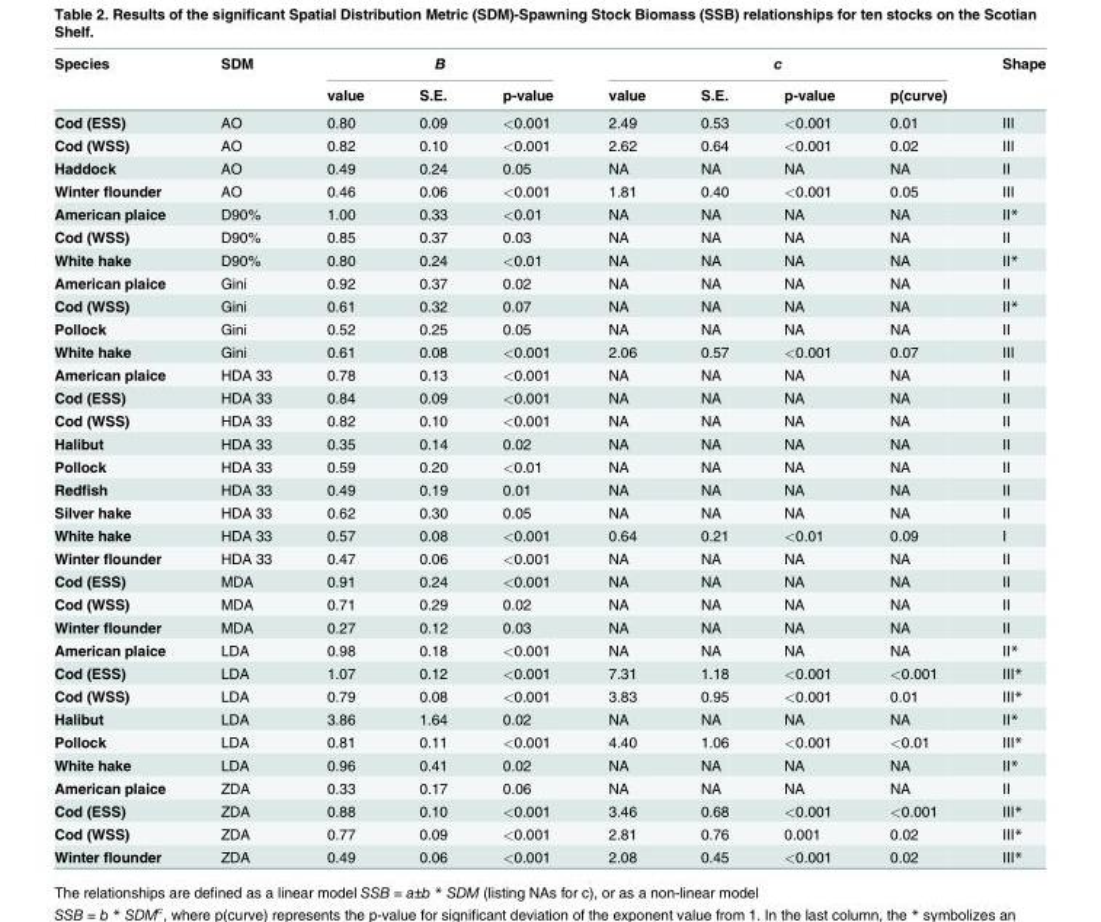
<table><thead><tr><td rowspan="2">Species</td><td rowspan="2">SDM</td><td colspan="3">B</td><td colspan="4">c</td><td rowspan="2">Shape</td></tr><tr><td>value</td><td>S.E.</td><td>p-value</td><td>value</td><td>S.E.</td><td>p-value</td><td>p(curve)</td></tr></thead><tbody><tr><td>Cod (ESS)</td><td>AO</td><td>0.80</td><td>0.09</td><td>&lt;0.001</td><td>2.49</td><td>0.53</td><td>&lt;0.001</td><td>0.01</td><td>III</td></tr><tr><td>Cod (WSS)</td><td>AO</td><td>0.82</td><td>0.10</td><td>&lt;0.001</td><td>2.62</td><td>0.64</td><td>&lt;0.001</td><td>0.02</td><td>III</td></tr><tr><td>Haddock</td><td>AO</td><td>0.49</td><td>0.24</td><td>0.05</td><td>NA</td><td>NA</td><td>NA</td><td>NA</td><td>II</td></tr><tr><td>Winter flounder</td><td>AO</td><td>0.46</td><td>0.06</td><td>&lt;0.001</td><td>1.81</td><td>0.40</td><td>&lt;0.001</td><td>0.05</td><td>III</td></tr><tr><td>American plaice</td><td>D90%</td><td>1.00</td><td>0.33</td><td>&lt;0.01</td><td>NA</td><td>NA</td><td>NA</td><td>NA</td><td>II*</td></tr><tr><td>Cod (WSS)</td><td>D90%</td><td>0.85</td><td>0.37</td><td>0.03</td><td>NA</td><td>NA</td><td>NA</td><td>NA</td><td>II</td></tr><tr><td>White hake</td><td>D90%</td><td>0.80</td><td>0.24</td><td>&lt;0.01</td><td>NA</td><td>NA</td><td>NA</td><td>NA</td><td>II*</td></tr><tr><td>American plaice</td><td>Gini</td><td>0.92</td><td>0.37</td><td>0.02</td><td>NA</td><td>NA</td><td>NA</td><td>NA</td><td>II</td></tr><tr><td>Cod (WSS)</td><td>Gini</td><td>0.61</td><td>0.32</td><td>0.07</td><td>NA</td><td>NA</td><td>NA</td><td>NA</td><td>II*</td></tr><tr><td>Pollock</td><td>Gini</td><td>0.52</td><td>0.25</td><td>0.05</td><td>NA</td><td>NA</td><td>NA</td><td>NA</td><td>II</td></tr><tr><td>White hake</td><td>Gini</td><td>0.61</td><td>0.08</td><td>&lt;0.001</td><td>2.06</td><td>0.57</td><td>&lt;0.001</td><td>0.07</td><td>III</td></tr><tr><td>American plaice</td><td>HDA 33</td><td>0.78</td><td>0.13</td><td>&lt;0.001</td><td>NA</td><td>NA</td><td>NA</td><td>NA</td><td>II</td></tr><tr><td>Cod (ESS)</td><td>HDA 33</td><td>0.84</td><td>0.09</td><td>&lt;0.001</td><td>NA</td><td>NA</td><td>NA</td><td>NA</td><td>II</td></tr><tr><td>Cod (WSS)</td><td>HDA 33</td><td>0.82</td><td>0.10</td><td>&lt;0.001</td><td>NA</td><td>NA</td><td>NA</td><td>NA</td><td>II</td></tr><tr><td>Halibut</td><td>HDA 33</td><td>0.35</td><td>0.14</td><td>0.02</td><td>NA</td><td>NA</td><td>NA</td><td>NA</td><td>II</td></tr><tr><td>Pollock</td><td>HDA 33</td><td>0.59</td><td>0.20</td><td>&lt;0.01</td><td>NA</td><td>NA</td><td>NA</td><td>NA</td><td>II</td></tr><tr><td>Redfish</td><td>HDA 33</td><td>0.49</td><td>0.19</td><td>0.01</td><td>NA</td><td>NA</td><td>NA</td><td>NA</td><td>II</td></tr><tr><td>Silver hake</td><td>HDA 33</td><td>0.62</td><td>0.30</td><td>0.05</td><td>NA</td><td>NA</td><td>NA</td><td>NA</td><td>II</td></tr><tr><td>White hake</td><td>HDA 33</td><td>0.57</td><td>0.08</td><td>&lt;0.001</td><td>0.64</td><td>0.21</td><td>&lt;0.01</td><td>0.09</td><td>I</td></tr><tr><td>Winter flounder</td><td>HDA 33</td><td>0.47</td><td>0.06</td><td>&lt;0.001</td><td>NA</td><td>NA</td><td>NA</td><td>NA</td><td>II</td></tr><tr><td>Cod (ESS)</td><td>MDA</td><td>0.91</td><td>0.24</td><td>&lt;0.001</td><td>NA</td><td>NA</td><td>NA</td><td>NA</td><td>II</td></tr><tr><td>Cod (WSS)</td><td>MDA</td><td>0.71</td><td>0.29</td><td>0.02</td><td>NA</td><td>NA</td><td>NA</td><td>NA</td><td>II</td></tr><tr><td>Winter flounder</td><td>MDA</td><td>0.27</td><td>0.12</td><td>0.03</td><td>NA</td><td>NA</td><td>NA</td><td>NA</td><td>II</td></tr><tr><td>American plaice</td><td>LDA</td><td>0.98</td><td>0.18</td><td>&lt;0.001</td><td>NA</td><td>NA</td><td>NA</td><td>NA</td><td>II*</td></tr><tr><td>Cod (ESS)</td><td>LDA</td><td>1.07</td><td>0.12</td><td>&lt;0.001</td><td>7.31</td><td>1.18</td><td>&lt;0.001</td><td>&lt;0.001</td><td>III*</td></tr><tr><td>Cod (WSS)</td><td>LDA</td><td>0.79</td><td>0.08</td><td>&lt;0.001</td><td>3.83</td><td>0.95</td><td>&lt;0.001</td><td>0.01</td><td>III*</td></tr><tr><td>Halibut</td><td>LDA</td><td>3.86</td><td>1.64</td><td>0.02</td><td>NA</td><td>NA</td><td>NA</td><td>NA</td><td>II*</td></tr><tr><td>Pollock</td><td>LDA</td><td>0.81</td><td>0.11</td><td>&lt;0.001</td><td>4.40</td><td>1.06</td><td>&lt;0.001</td><td>&lt;0.01</td><td>III*</td></tr><tr><td>White hake</td><td>LDA</td><td>0.96</td><td>0.41</td><td>0.02</td><td>NA</td><td>NA</td><td>NA</td><td>NA</td><td>II*</td></tr><tr><td>American plaice</td><td>ZDA</td><td>0.33</td><td>0.17</td><td>0.06</td><td>NA</td><td>NA</td><td>NA</td><td>NA</td><td>II</td></tr><tr><td>Cod (ESS)</td><td>ZDA</td><td>0.88</td><td>0.10</td><td>&lt;0.001</td><td>3.46</td><td>0.68</td><td>&lt;0.001</td><td>&lt;0.001</td><td>III*</td></tr><tr><td>Cod (WSS)</td><td>ZDA</td><td>0.77</td><td>0.09</td><td>&lt;0.001</td><td>2.81</td><td>0.76</td><td>0.001</td><td>0.02</td><td>III*</td></tr><tr><td>Winter flounder</td><td>ZDA</td><td>0.49</td><td>0.06</td><td>&lt;0.001</td><td>2.08</td><td>0.45</td><td>&lt;0.001</td><td>0.02</td><td>III*</td></tr></tbody></table>